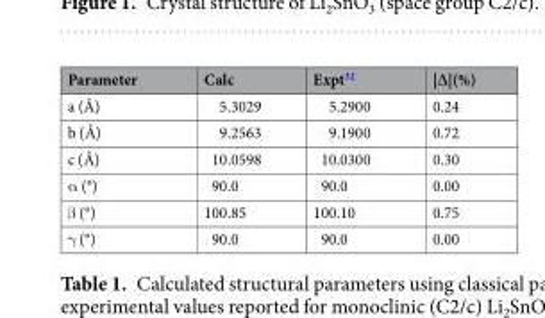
<table><thead><tr><td>Parameter</td><td>Calc</td><td>Expt<sup>32</sup></td><td>|∆|(%)</td></tr></thead><tbody><tr><td>a (Å)</td><td>5.3029</td><td>5.2900</td><td>0.24</td></tr><tr><td>b (Å)</td><td>9.2563</td><td>9.1900</td><td>0.72</td></tr><tr><td>c (Å)</td><td>10.0598</td><td>10.0300</td><td>0.30</td></tr><tr><td>α (°)</td><td>90.0</td><td>90.0</td><td>0.00</td></tr><tr><td>β (°)</td><td>100.85</td><td>100.10</td><td>0.75</td></tr><tr><td>γ (°)</td><td>90.0</td><td>90.0</td><td>0.00</td></tr></tbody></table>